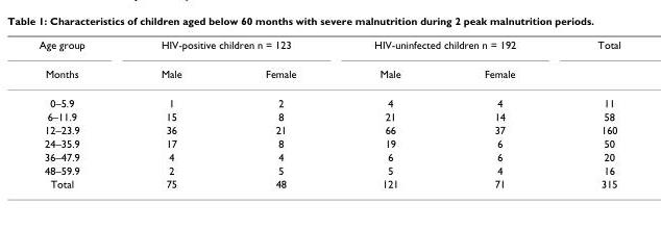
<table><thead><tr><td rowspan="2">Age group Months</td><td colspan="2">HIV-positive children n = 123</td><td colspan="2">HIV-uninfected children n = 192</td><td rowspan="2">Total</td></tr><tr><td>Male</td><td>Female</td><td>Male</td><td>Female</td></tr></thead><tbody><tr><td>0–5.9</td><td>1</td><td>2</td><td>4</td><td>4</td><td>11</td></tr><tr><td>6–11.9</td><td>15</td><td>8</td><td>21</td><td>14</td><td>58</td></tr><tr><td>12–23.9</td><td>36</td><td>21</td><td>66</td><td>37</td><td>160</td></tr><tr><td>24–35.9</td><td>17</td><td>8</td><td>19</td><td>6</td><td>50</td></tr><tr><td>36–47.9</td><td>4</td><td>4</td><td>6</td><td>6</td><td>20</td></tr><tr><td>48–59.9</td><td>2</td><td>5</td><td>5</td><td>4</td><td>16</td></tr><tr><td>Total</td><td>75</td><td>48</td><td>121</td><td>71</td><td>315</td></tr></tbody></table>